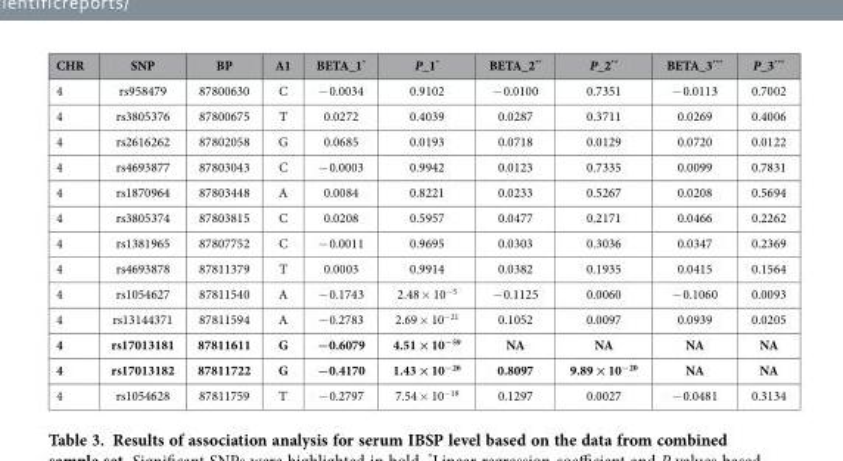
<table><thead><tr><td>CHR</td><td>SNP</td><td>BP</td><td>A1</td><td>BETA_1*</td><td>P_1*</td><td>BETA_2**</td><td>P_2**</td><td>BETA_3***</td><td>P_3***</td></tr></thead><tbody><tr><td>4</td><td>rs958479</td><td>87800630</td><td>C</td><td>− 0.0034</td><td>0.9102</td><td>− 0.0100</td><td>0.7351</td><td>− 0.0113</td><td>0.7002</td></tr><tr><td>4</td><td>rs3805376</td><td>87800675</td><td>T</td><td>0.0272</td><td>0.4039</td><td>0.0287</td><td>0.3711</td><td>0.0269</td><td>0.4006</td></tr><tr><td>4</td><td>rs2616262</td><td>87802058</td><td>G</td><td>0.0685</td><td>0.0193</td><td>0.0718</td><td>0.0129</td><td>0.0720</td><td>0.0122</td></tr><tr><td>4</td><td>rs4693877</td><td>87803043</td><td>C</td><td>− 0.0003</td><td>0.9942</td><td>0.0123</td><td>0.7335</td><td>0.0099</td><td>0.7831</td></tr><tr><td>4</td><td>rs1870964</td><td>87803448</td><td>A</td><td>0.0084</td><td>0.8221</td><td>0.0233</td><td>0.5267</td><td>0.0208</td><td>0.5694</td></tr><tr><td>4</td><td>rs3805374</td><td>87803815</td><td>C</td><td>0.0208</td><td>0.5957</td><td>0.0477</td><td>0.2171</td><td>0.0466</td><td>0.2262</td></tr><tr><td>4</td><td>rs1381965</td><td>87807752</td><td>C</td><td>− 0.0011</td><td>0.9695</td><td>0.0303</td><td>0.3036</td><td>0.0347</td><td>0.2369</td></tr><tr><td>4</td><td>rs4693878</td><td>87811379</td><td>T</td><td>0.0003</td><td>0.9914</td><td>0.0382</td><td>0.1935</td><td>0.0415</td><td>0.1564</td></tr><tr><td>4</td><td>rs1054627</td><td>87811540</td><td>A</td><td>− 0.1743</td><td>2.48 × 10<sup>−5</sup></td><td>− 0.1125</td><td>0.0060</td><td>− 0.1060</td><td>0.0093</td></tr><tr><td>4</td><td>rs13144371</td><td>87811594</td><td>A</td><td>− 0.2783</td><td>2.69 × 10<sup>−21</sup></td><td>0.1052</td><td>0.0097</td><td>0.0939</td><td>0.0205</td></tr><tr><td>4</td><td>rs17013181</td><td>87811611</td><td>G</td><td>−0.6079</td><td>4.51 × 10<sup>−59</sup></td><td>NA</td><td>NA</td><td>NA</td><td>NA</td></tr><tr><td>4</td><td>rs17013182</td><td>87811722</td><td>G</td><td>−0.4170</td><td>1.43 × 10<sup>−26</sup></td><td>0.8097</td><td>9.89 × 10<sup>−20</sup></td><td>NA</td><td>NA</td></tr><tr><td>4</td><td>rs1054628</td><td>87811759</td><td>T</td><td>− 0.2797</td><td>7.54 × 10<sup>−18</sup></td><td>0.1297</td><td>0.0027</td><td>− 0.0481</td><td>0.3134</td></tr></tbody></table>